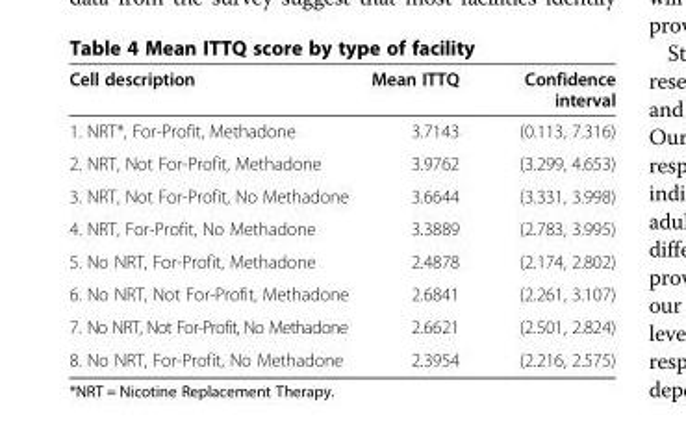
<table><thead><tr><td>Cell description</td><td>Mean ITTQ</td><td>Confidence interval</td></tr></thead><tbody><tr><td>1. NRT*, For-Profit, Methadone</td><td>3.7143</td><td>(0.113, 7.316)</td></tr><tr><td>2. NRT, Not For-Profit, Methadone</td><td>3.9762</td><td>(3.299, 4.653)</td></tr><tr><td>3. NRT, Not For-Profit, No Methadone</td><td>3.6644</td><td>(3.331, 3.998)</td></tr><tr><td>4. NRT, For-Profit, No Methadone</td><td>3.3889</td><td>(2.783, 3.995)</td></tr><tr><td>5. No NRT, For-Profit, Methadone</td><td>2.4878</td><td>(2.174, 2.802)</td></tr><tr><td>6. No NRT, Not For-Profit, Methadone</td><td>2.6841</td><td>(2.261, 3.107)</td></tr><tr><td>7. No NRT, Not For-Profit, No Methadone</td><td>2.6621</td><td>(2.501, 2.824)</td></tr><tr><td>8. No NRT, For-Profit, No Methadone</td><td>2.3954</td><td>(2.216, 2.575)</td></tr></tbody></table>